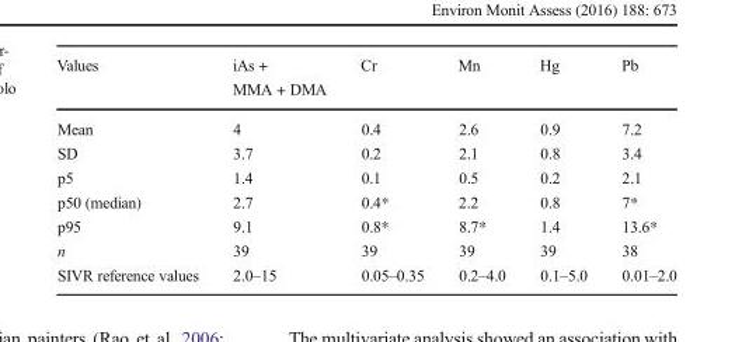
<table><thead><tr><td>Values</td><td>iAs + MMA + DMA</td><td>Cr</td><td>Mn</td><td>Hg</td><td>Pb</td></tr></thead><tbody><tr><td>Mean</td><td>4</td><td>0.4</td><td>2.6</td><td>0.9</td><td>7.2</td></tr><tr><td>SD</td><td>3.7</td><td>0.2</td><td>2.1</td><td>0.8</td><td>3.4</td></tr><tr><td>p5</td><td>1.4</td><td>0.1</td><td>0.5</td><td>0.2</td><td>2.1</td></tr><tr><td>p50 (median)</td><td>2.7</td><td>0.4*</td><td>2.2</td><td>0.8</td><td>7*</td></tr><tr><td>p95</td><td>9.1</td><td>0.8*</td><td>8.7*</td><td>1.4</td><td>13.6*</td></tr><tr><td>n</td><td>39</td><td>39</td><td>39</td><td>39</td><td>38</td></tr><tr><td>SIVR reference values</td><td>2.0–15</td><td>0.05–0.35</td><td>0.2–4.0</td><td>0.1–5.0</td><td>0.01–2.0</td></tr></tbody></table>